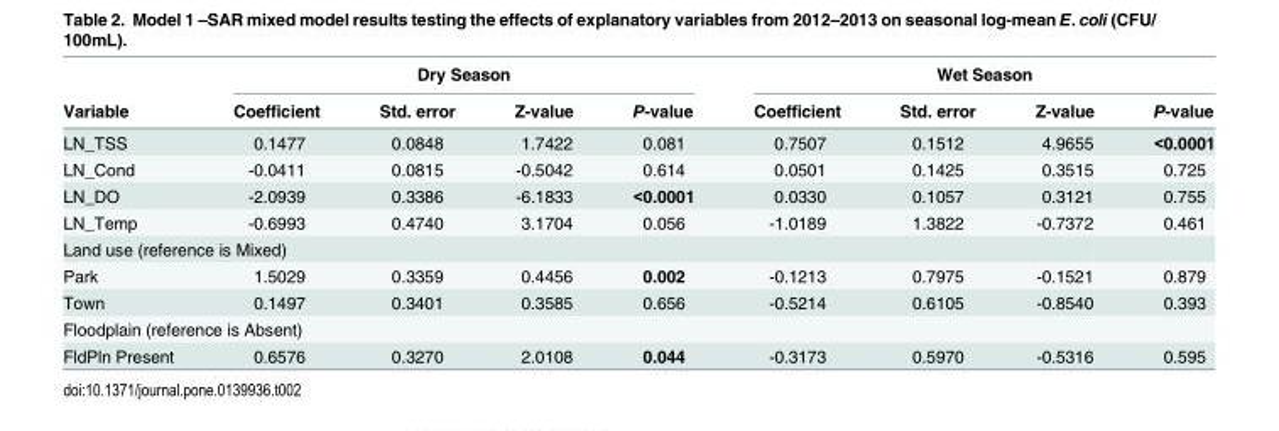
<table><thead><tr><td rowspan="2">Variable</td><td colspan="4">Dry Season</td><td colspan="4">Wet Season</td></tr><tr><td>Coefficient</td><td>Std. error</td><td>Z-value</td><td>P-value</td><td>Coefficient</td><td>Std. error</td><td>Z-value</td><td>P-value</td></tr></thead><tbody><tr><td>LN_TSS</td><td>0.1477</td><td>0.0848</td><td>1.7422</td><td>0.081</td><td>0.7507</td><td>0.1512</td><td>4.9655</td><td>&lt;0.0001</td></tr><tr><td>LN_Cond</td><td>-0.0411</td><td>0.0815</td><td>-0.5042</td><td>0.614</td><td>0.0501</td><td>0.1425</td><td>0.3515</td><td>0.725</td></tr><tr><td>LN_DO</td><td>-2.0939</td><td>0.3386</td><td>-6.1833</td><td>&lt;0.0001</td><td>0.0330</td><td>0.1057</td><td>0.3121</td><td>0.755</td></tr><tr><td>LN_Temp</td><td>-0.6993</td><td>0.4740</td><td>3.1704</td><td>0.056</td><td>-1.0189</td><td>1.3822</td><td>-0.7372</td><td>0.461</td></tr><tr><td colspan="9">Land use (reference is Mixed)</td></tr><tr><td>Park</td><td>1.5029</td><td>0.3359</td><td>0.4456</td><td>0.002</td><td>-0.1213</td><td>0.7975</td><td>-0.1521</td><td>0.879</td></tr><tr><td>Town</td><td>0.1497</td><td>0.3401</td><td>0.3585</td><td>0.656</td><td>-0.5214</td><td>0.6105</td><td>-0.8540</td><td>0.393</td></tr><tr><td colspan="9">Floodplain (reference is Absent)</td></tr><tr><td>FldPln Present</td><td>0.6576</td><td>0.3270</td><td>2.0108</td><td>0.044</td><td>-0.3173</td><td>0.5970</td><td>-0.5316</td><td>0.595</td></tr></tbody></table>